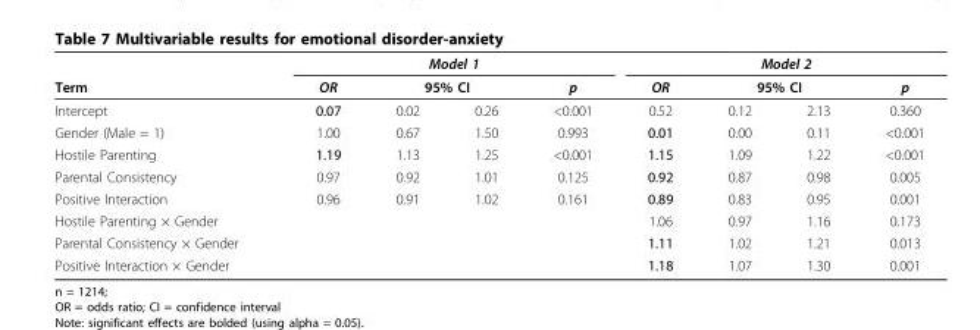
<table><thead><tr><td rowspan="3">Term Intercept</td><td colspan="4">Model 1</td><td colspan="4">Model 2</td></tr><tr><td rowspan="2">OR 0.07</td><td colspan="2">95% CI</td><td rowspan="2">p &lt;0.001</td><td rowspan="2">OR 0.52</td><td colspan="2">95% CI</td><td rowspan="2">p 0.360</td></tr><tr><td>0.02</td><td>0.26</td><td>0.12</td><td>2.13</td></tr></thead><tbody><tr><td>Gender (Male = 1)</td><td>1.00</td><td>0.67</td><td>1.50</td><td>0.993</td><td>0.01</td><td>0.00</td><td>0.11</td><td>&lt;0.001</td></tr><tr><td>Hostile Parenting</td><td>1.19</td><td>1.13</td><td>1.25</td><td>&lt;0.001</td><td>1.15</td><td>1.09</td><td>1.22</td><td>&lt;0.001</td></tr><tr><td>Parental Consistency</td><td>0.97</td><td>0.92</td><td>1.01</td><td>0.125</td><td>0.92</td><td>0.87</td><td>0.98</td><td>0.005</td></tr><tr><td>Positive Interaction</td><td>0.96</td><td>0.91</td><td>1.02</td><td>0.161</td><td>0.89</td><td>0.83</td><td>0.95</td><td>0.001</td></tr><tr><td>Hostile Parenting × Gender</td><td></td><td></td><td></td><td></td><td>1.06</td><td>0.97</td><td>1.16</td><td>0.173</td></tr><tr><td>Parental Consistency × Gender</td><td></td><td></td><td></td><td></td><td>1.11</td><td>1.02</td><td>1.21</td><td>0.013</td></tr><tr><td>Positive Interaction × Gender</td><td></td><td></td><td></td><td></td><td>1.18</td><td>1.07</td><td>1.30</td><td>0.001</td></tr></tbody></table>